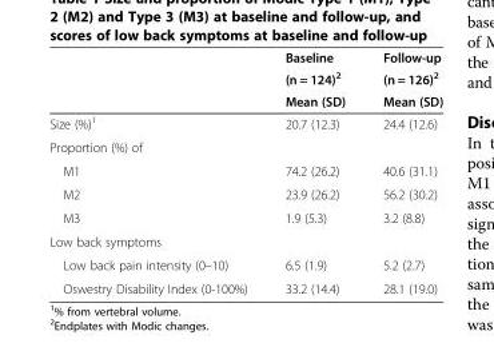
<table><thead><tr><td rowspan="3"></td><td rowspan="3">Baseline (n = 124)<sup>2</sup> Mean (SD)</td><td rowspan="3">Follow-up (n = 126)<sup>2</sup> Mean (SD)</td></tr><tr></tr><tr></tr></thead><tbody><tr><td>Size (%)<sup>1</sup></td><td>20.7 (12.3)</td><td>24.4 (12.6)</td></tr><tr><td colspan="3">Proportion (%) of</td></tr><tr><td>M1</td><td>74.2 (26.2)</td><td>40.6 (31.1)</td></tr><tr><td>M2</td><td>23.9 (26.2)</td><td>56.2 (30.2)</td></tr><tr><td>M3</td><td>1.9 (5.3)</td><td>3.2 (8.8)</td></tr><tr><td colspan="3">Low back symptoms</td></tr><tr><td>Low back pain intensity (0–10)</td><td>6.5 (1.9)</td><td>5.2 (2.7)</td></tr><tr><td>Oswestry Disability Index (0-100%)</td><td>33.2 (14.4)</td><td>28.1 (19.0)</td></tr></tbody></table>